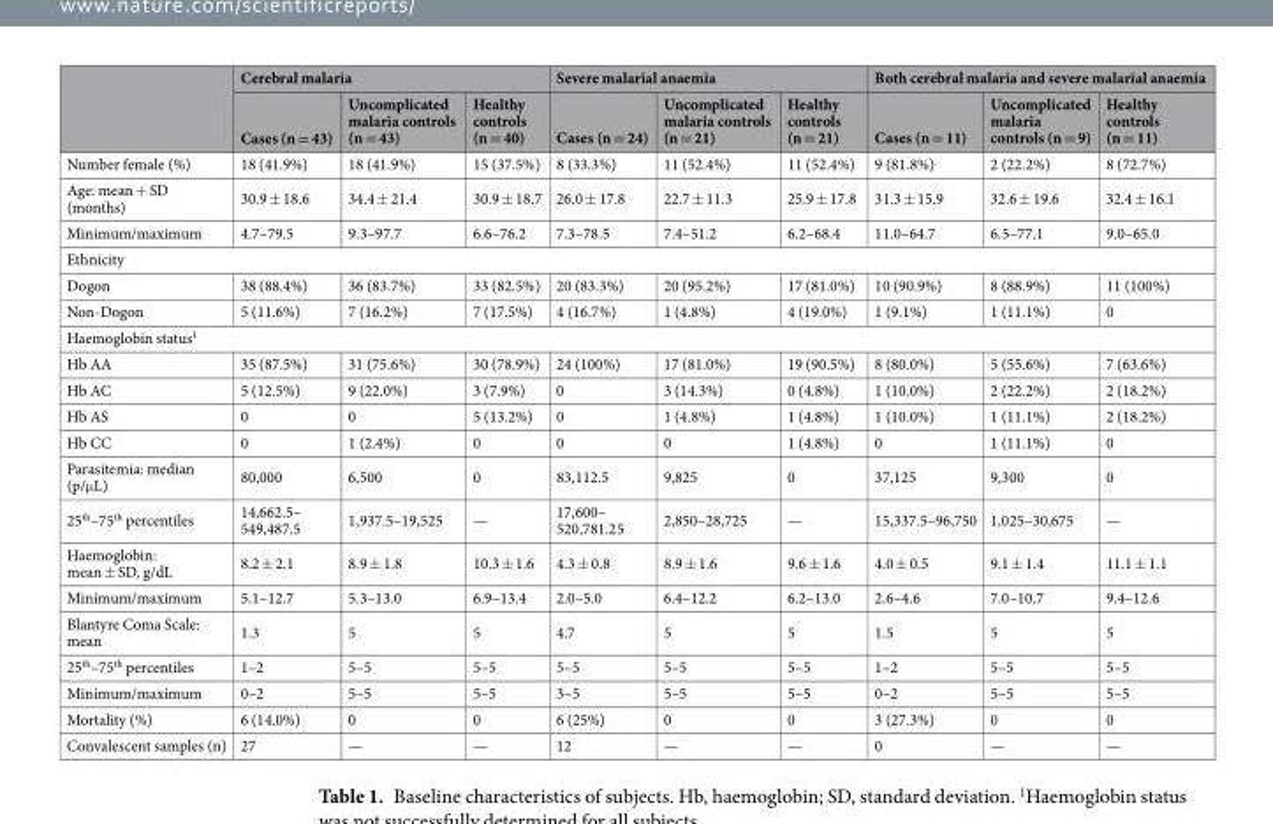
<table><thead><tr><td rowspan="2"></td><td colspan="3">Cerebral malaria</td><td colspan="3">Severe malarial anaemia</td><td colspan="3">Both cerebral malaria and severe malarial anaemia</td></tr><tr><td>Cases (n = 43)</td><td>Uncomplicated malaria controls (n = 43)</td><td>Healthy controls (n = 40)</td><td>Cases (n = 24)</td><td>Uncomplicated malaria controls (n = 21)</td><td>Healthy controls (n = 21)</td><td>Cases (n = 11)</td><td>Uncomplicated malaria controls (n = 9)</td><td>Healthy controls (n = 11)</td></tr></thead><tbody><tr><td>Number female (%)</td><td>18 (41.9%)</td><td>18 (41.9%)</td><td>15 (37.5%)</td><td>8 (33.3%)</td><td>11 (52.4%)</td><td>11 (52.4%)</td><td>9 (81.8%)</td><td>2 (22.2%)</td><td>8 (72.7%)</td></tr><tr><td>Age: mean + SD (months)</td><td>30.9 ± 18.6</td><td>34.4 ± 21.4</td><td>30.9 ± 18.7</td><td>26.0 ± 17.8</td><td>22.7 ± 11.3</td><td>25.9 ± 17.8</td><td>31.3 ± 15.9</td><td>32.6 ± 19.6</td><td>32.4 ± 16.1</td></tr><tr><td>Minimum/maximum</td><td>4.7–79.5</td><td>9.3–97.7</td><td>6.6–76.2</td><td>7.3–78.5</td><td>7.4–51.2</td><td>6.2–68.4</td><td>11.0–64.7</td><td>6.5–77.1</td><td>9.0–65.0</td></tr><tr><td colspan="10">Ethnicity</td></tr><tr><td>Dogon</td><td>38 (88.4%)</td><td>36 (83.7%)</td><td>33 (82.5%)</td><td>20 (83.3%)</td><td>20 (95.2%)</td><td>17 (81.0%)</td><td>10 (90.9%)</td><td>8 (88.9%)</td><td>11 (100%)</td></tr><tr><td>Non-Dogon</td><td>5 (11.6%)</td><td>7 (16.2%)</td><td>7 (17.5%)</td><td>4 (16.7%)</td><td>1 (4.8%)</td><td>4 (19.0%)</td><td>1 (9.1%)</td><td>1 (11.1%)</td><td>0</td></tr><tr><td colspan="10">Haemoglobin status<sup>1</sup></td></tr><tr><td>Hb AA</td><td>35 (87.5%)</td><td>31 (75.6%)</td><td>30 (78.9%)</td><td>24 (100%)</td><td>17 (81.0%)</td><td>19 (90.5%)</td><td>8 (80.0%)</td><td>5 (55.6%)</td><td>7 (63.6%)</td></tr><tr><td>Hb AC</td><td>5 (12.5%)</td><td>9 (22.0%)</td><td>3 (7.9%)</td><td>0</td><td>3 (14.3%)</td><td>0 (4.8%)</td><td>1 (10.0%)</td><td>2 (22.2%)</td><td>2 (18.2%)</td></tr><tr><td>Hb AS</td><td>0</td><td>0</td><td>5 (13.2%)</td><td>0</td><td>1 (4.8%)</td><td>1 (4.8%)</td><td>1 (10.0%)</td><td>1 (11.1%)</td><td>2 (18.2%)</td></tr><tr><td>Hb CC</td><td>0</td><td>1 (2.4%)</td><td>0</td><td>0</td><td>0</td><td>1 (4.8%)</td><td>0</td><td>1 (11.1%)</td><td>0</td></tr><tr><td>Parasitemia: median (p/μL)</td><td>80,000</td><td>6,500</td><td>0</td><td>83,112.5</td><td>9,825</td><td>0</td><td>37,125</td><td>9,300</td><td>0</td></tr><tr><td>25<sup>th</sup>–75<sup>th</sup> percentiles</td><td>14,662.5– 549,487.5</td><td>1,937.5–19,525</td><td>—</td><td>17,600– 520,781.25</td><td>2,850–28,725</td><td>—</td><td>15,337.5–96,750</td><td>1,025–30,675</td><td>—</td></tr><tr><td>Haemoglobin: mean ± SD, g/dL</td><td>8.2 ± 2.1</td><td>8.9 ± 1.8</td><td>10.3 ± 1.6</td><td>4.3 ± 0.8</td><td>8.9 ± 1.6</td><td>9.6 ± 1.6</td><td>4.0 ± 0.5</td><td>9.1 ± 1.4</td><td>11.1 ± 1.1</td></tr><tr><td>Minimum/maximum</td><td>5.1–12.7</td><td>5.3–13.0</td><td>6.9–13.4</td><td>2.0–5.0</td><td>6.4–12.2</td><td>6.2–13.0</td><td>2.6–4.6</td><td>7.0–10.7</td><td>9.4–12.6</td></tr><tr><td>Blantyre Coma Scale: mean</td><td>1.3</td><td>5</td><td>5</td><td>4.7</td><td>5</td><td>5</td><td>1.5</td><td>5</td><td>5</td></tr><tr><td>25<sup>th</sup>–75<sup>th</sup> percentiles</td><td>1–2</td><td>5–5</td><td>5–5</td><td>5–5</td><td>5–5</td><td>5–5</td><td>1–2</td><td>5–5</td><td>5–5</td></tr><tr><td>Minimum/maximum</td><td>0–2</td><td>5–5</td><td>5–5</td><td>3–5</td><td>5–5</td><td>5–5</td><td>0–2</td><td>5–5</td><td>5–5</td></tr><tr><td>Mortality (%)</td><td>6 (14.0%)</td><td>0</td><td>0</td><td>6 (25%)</td><td>0</td><td>0</td><td>3 (27.3%)</td><td>0</td><td>0</td></tr><tr><td>Convalescent samples (n)</td><td>27</td><td>—</td><td>—</td><td>12</td><td>—</td><td>—</td><td>0</td><td>—</td><td>—</td></tr></tbody></table>